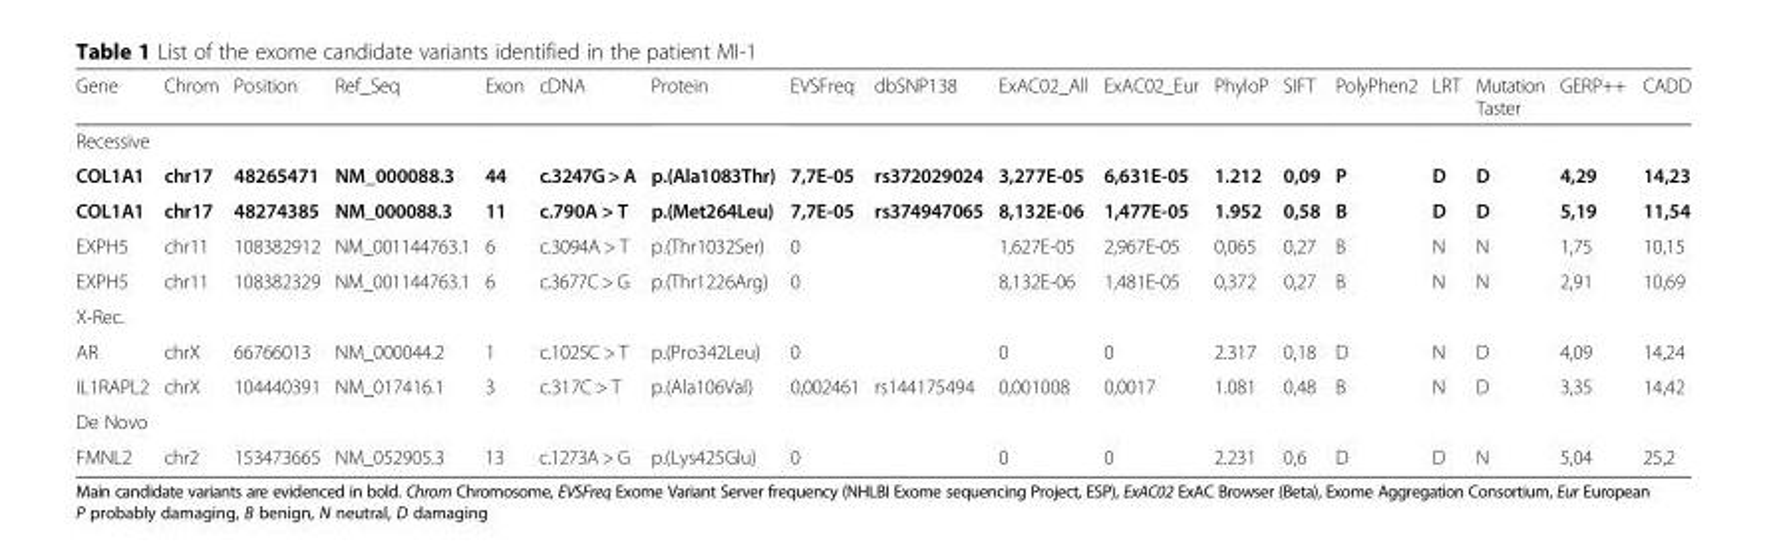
<table><thead><tr><td>Gene</td><td>Chrom</td><td>Position</td><td>Ref_Seq</td><td>Exon</td><td>cDNA</td><td>Protein</td><td>EVSFreq</td><td>dbSNP138</td><td>ExAC02_All</td><td>ExAC02_Eur</td><td>PhyloP</td><td>SIFT</td><td>PolyPhen2</td><td>LRT</td><td>Mutation Taster</td><td>GERP++</td><td>CADD</td></tr></thead><tbody><tr><td colspan="18">Recessive</td></tr><tr><td>COL1A1</td><td>chr17</td><td>48265471</td><td>NM_000088.3</td><td>44</td><td>c.3247G &gt; A</td><td>p.(Ala1083Thr)</td><td>7,7E-05</td><td>rs372029024</td><td>3,277E-05</td><td>6,631E-05</td><td>1.212</td><td>0,09</td><td>P</td><td>D</td><td>D</td><td>4,29</td><td>14,23</td></tr><tr><td>COL1A1</td><td>chr17</td><td>48274385</td><td>NM_000088.3</td><td>11</td><td>c.790A &gt; T</td><td>p.(Met264Leu)</td><td>7,7E-05</td><td>rs374947065</td><td>8,132E-06</td><td>1,477E-05</td><td>1.952</td><td>0,58</td><td>B</td><td>D</td><td>D</td><td>5,19</td><td>11,54</td></tr><tr><td>EXPH5</td><td>chr11</td><td>108382912</td><td>NM_001144763.1</td><td>6</td><td>c.3094A &gt; T</td><td>p.(Thr1032Ser)</td><td>0</td><td></td><td>1,627E-05</td><td>2,967E-05</td><td>0,065</td><td>0,27</td><td>B</td><td>N</td><td>N</td><td>1,75</td><td>10,15</td></tr><tr><td>EXPH5</td><td>chr11</td><td>108382329</td><td>NM_001144763.1</td><td>6</td><td>c.3677C &gt; G</td><td>p.(Thr1226Arg)</td><td>0</td><td></td><td>8,132E-06</td><td>1,481E-05</td><td>0,372</td><td>0,27</td><td>B</td><td>N</td><td>N</td><td>2,91</td><td>10,69</td></tr><tr><td colspan="18">X-Rec.</td></tr><tr><td>AR</td><td>chrX</td><td>66766013</td><td>NM_000044.2</td><td>1</td><td>c.1025C &gt; T</td><td>p.(Pro342Leu)</td><td>0</td><td></td><td>0</td><td>0</td><td>2.317</td><td>0,18</td><td>D</td><td>N</td><td>D</td><td>4,09</td><td>14,24</td></tr><tr><td>IL1RAPL2</td><td>chrX</td><td>104440391</td><td>NM_017416.1</td><td>3</td><td>c.317C &gt; T</td><td>p.(Ala106Val)</td><td>0,002461</td><td>rs144175494</td><td>0,001008</td><td>0,0017</td><td>1.081</td><td>0,48</td><td>B</td><td>N</td><td>D</td><td>3,35</td><td>14,42</td></tr><tr><td colspan="18">De Novo</td></tr><tr><td>FMNL2</td><td>chr2</td><td>153473665</td><td>NM_052905.3</td><td>13</td><td>c.1273A &gt; G</td><td>p.(Lys425Glu)</td><td>0</td><td></td><td>0</td><td>0</td><td>2.231</td><td>0,6</td><td>D</td><td>D</td><td>N</td><td>5,04</td><td>25,2</td></tr></tbody></table>